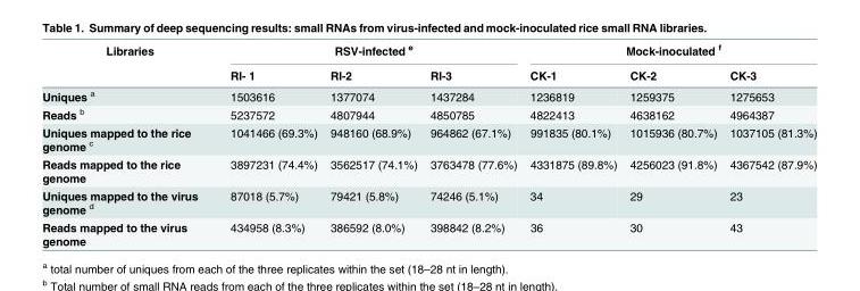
<table><thead><tr><td rowspan="2">Libraries</td><td colspan="3">RSV-infected <sup>e</sup></td><td colspan="3">Mock-inoculated <sup>f</sup></td></tr><tr><td>RI- 1</td><td>RI-2</td><td>RI-3</td><td>CK-1</td><td>CK-2</td><td>CK-3</td></tr></thead><tbody><tr><td>Uniques <sup>a</sup></td><td>1503616</td><td>1377074</td><td>1437284</td><td>1236819</td><td>1259375</td><td>1275653</td></tr><tr><td>Reads <sup>b</sup></td><td>5237572</td><td>4807944</td><td>4850785</td><td>4822413</td><td>4638162</td><td>4964387</td></tr><tr><td>Uniques mapped to the rice genome <sup>c</sup></td><td>1041466 (69.3%)</td><td>948160 (68.9%)</td><td>964862 (67.1%)</td><td>991835 (80.1%)</td><td>1015936 (80.7%)</td><td>1037105 (81.3%)</td></tr><tr><td>Reads mapped to the rice genome</td><td>3897231 (74.4%)</td><td>3562517 (74.1%)</td><td>3763478 (77.6%)</td><td>4331875 (89.8%)</td><td>4256023 (91.8%)</td><td>4367542 (87.9%)</td></tr><tr><td>Uniques mapped to the virus genome <sup>d</sup></td><td>87018 (5.7%)</td><td>79421 (5.8%)</td><td>74246 (5.1%)</td><td>34</td><td>29</td><td>23</td></tr><tr><td>Reads mapped to the virus genome</td><td>434958 (8.3%)</td><td>386592 (8.0%)</td><td>398842 (8.2%)</td><td>36</td><td>30</td><td>43</td></tr></tbody></table>